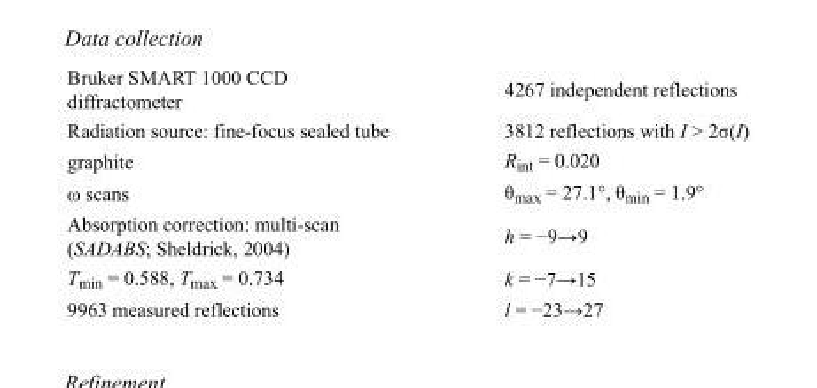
<table><tbody><tr><td>Bruker SMART 1000 CCD diffractometer</td><td>4267 independent reflections</td></tr><tr><td>Radiation source: fine-focus sealed tube</td><td>3812 reflections with I &gt; 2σ(I)</td></tr><tr><td>graphite</td><td>R<sub>int</sub> = 0.020</td></tr><tr><td>ω scans</td><td>θ<sub>max</sub> = 27.1°, θ<sub>min</sub> = 1.9°</td></tr><tr><td>Absorption correction: multi-scan (SADABS; Sheldrick, 2004)</td><td>h = −9→9</td></tr><tr><td>T<sub>min</sub> = 0.588, T<sub>max</sub> = 0.734</td><td>k = −7→15</td></tr><tr><td>9963 measured reflections</td><td>l = −23→27</td></tr></tbody></table>